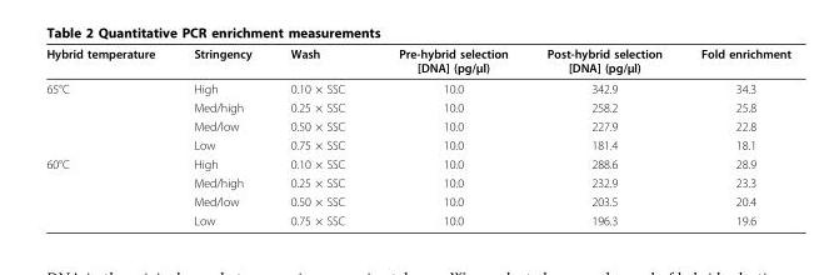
<table><thead><tr><td>Hybrid temperature</td><td>Stringency</td><td>Wash</td><td>Pre-hybrid selection [DNA] (pg/μl)</td><td>Post-hybrid selection [DNA] (pg/μl)</td><td>Fold enrichment</td></tr></thead><tbody><tr><td rowspan="4">65°C</td><td>High</td><td>0.10 × SSC</td><td>10.0</td><td>342.9</td><td>34.3</td></tr><tr><td>Med/high</td><td>0.25 × SSC</td><td>10.0</td><td>258.2</td><td>25.8</td></tr><tr><td>Med/low</td><td>0.50 × SSC</td><td>10.0</td><td>227.9</td><td>22.8</td></tr><tr><td>Low</td><td>0.75 × SSC</td><td>10.0</td><td>181.4</td><td>18.1</td></tr><tr><td rowspan="4">60°C</td><td>High</td><td>0.10 × SSC</td><td>10.0</td><td>288.6</td><td>28.9</td></tr><tr><td>Med/high</td><td>0.25 × SSC</td><td>10.0</td><td>232.9</td><td>23.3</td></tr><tr><td>Med/low</td><td>0.50 × SSC</td><td>10.0</td><td>203.5</td><td>20.4</td></tr><tr><td>Low</td><td>0.75 × SSC</td><td>10.0</td><td>196.3</td><td>19.6</td></tr></tbody></table>